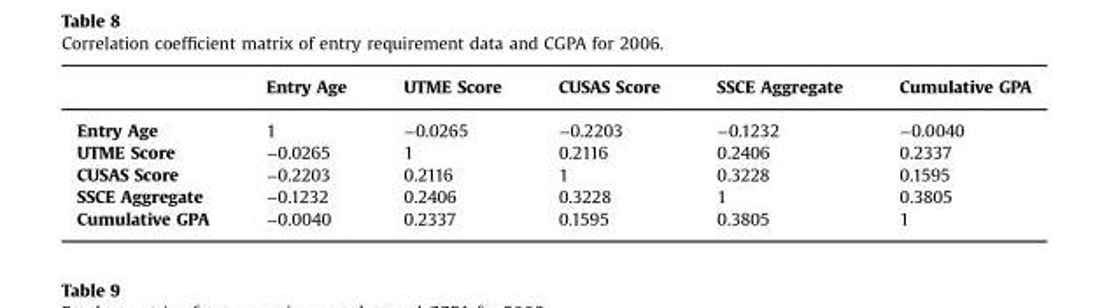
<table><thead><tr><td></td><td>Entry Age</td><td>UTME Score</td><td>CUSAS Score</td><td>SSCE Aggregate</td><td>Cumulative GPA</td></tr></thead><tbody><tr><td>Entry Age</td><td>1</td><td>−0.0265</td><td>−0.2203</td><td>−0.1232</td><td>−0.0040</td></tr><tr><td>UTME Score</td><td>−0.0265</td><td>1</td><td>0.2116</td><td>0.2406</td><td>0.2337</td></tr><tr><td>CUSAS Score</td><td>−0.2203</td><td>0.2116</td><td>1</td><td>0.3228</td><td>0.1595</td></tr><tr><td>SSCE Aggregate</td><td>−0.1232</td><td>0.2406</td><td>0.3228</td><td>1</td><td>0.3805</td></tr><tr><td>Cumulative GPA</td><td>−0.0040</td><td>0.2337</td><td>0.1595</td><td>0.3805</td><td>1</td></tr></tbody></table>